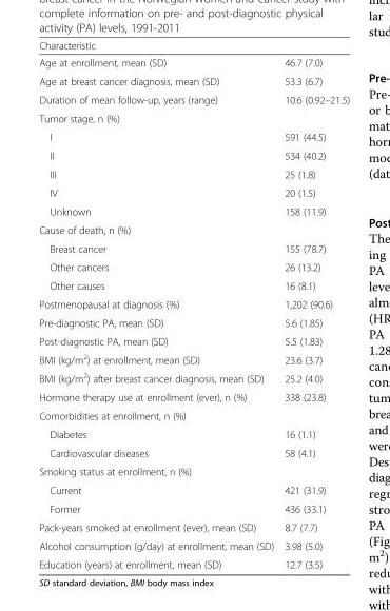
<table><thead><tr><td>Characteristic</td><td></td></tr></thead><tbody><tr><td>Age at enrollment, mean (SD)</td><td>46.7 (7.0)</td></tr><tr><td>Age at breast cancer diagnosis, mean (SD)</td><td>53.3 (6.7)</td></tr><tr><td>Duration of mean follow-up, years (range)</td><td>10.6 (0.92–21.5)</td></tr><tr><td colspan="2">Tumor stage, n (%)</td></tr><tr><td>I</td><td>591 (44.5)</td></tr><tr><td>II</td><td>534 (40.2)</td></tr><tr><td>III</td><td>25 (1.8)</td></tr><tr><td>IV</td><td>20 (1.5)</td></tr><tr><td>Unknown</td><td>158 (11.9)</td></tr><tr><td colspan="2">Cause of death, n (%)</td></tr><tr><td>Breast cancer</td><td>155 (78.7)</td></tr><tr><td>Other cancers</td><td>26 (13.2)</td></tr><tr><td>Other causes</td><td>16 (8.1)</td></tr><tr><td>Postmenopausal at diagnosis (%)</td><td>1,202 (90.6)</td></tr><tr><td>Pre-diagnostic PA, mean (SD)</td><td>5.6 (1.85)</td></tr><tr><td>Post-diagnostic PA, mean (SD)</td><td>5.5 (1.83)</td></tr><tr><td>BMI (kg/m<sup>2</sup>) at enrollment, mean (SD)</td><td>23.6 (3.7)</td></tr><tr><td>BMI (kg/m<sup>2</sup>) after breast cancer diagnosis, mean (SD)</td><td>25.2 (4.0)</td></tr><tr><td>Hormone therapy use at enrollment (ever), n (%)</td><td>338 (23.8)</td></tr><tr><td colspan="2">Comorbidities at enrollment, n (%)</td></tr><tr><td>Diabetes</td><td>16 (1.1)</td></tr><tr><td>Cardiovascular diseases</td><td>58 (4.1)</td></tr><tr><td colspan="2">Smoking status at enrollment, n (%)</td></tr><tr><td>Current</td><td>421 (31.9)</td></tr><tr><td>Former</td><td>436 (33.1)</td></tr><tr><td>Pack-years smoked at enrollment (ever), mean (SD)</td><td>8.7 (7.7)</td></tr><tr><td>Alcohol consumption (g/day) at enrollment, mean (SD)</td><td>3.98 (5.0)</td></tr><tr><td>Education (years) at enrollment, mean (SD)</td><td>12.7 (3.5)</td></tr></tbody></table>